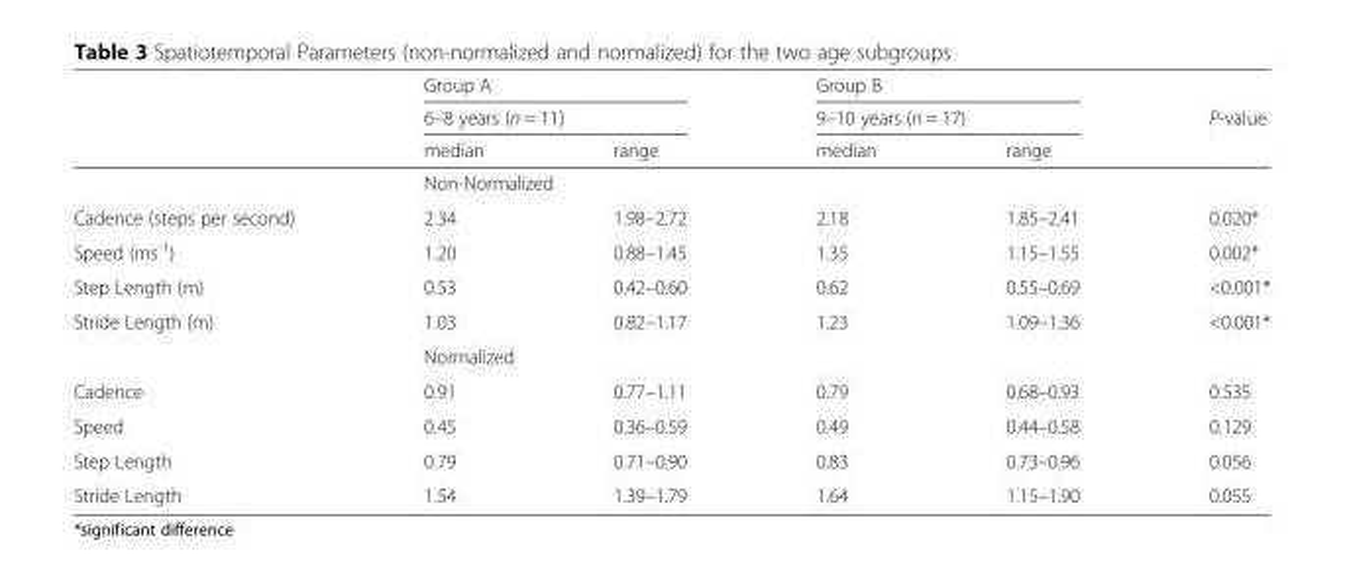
<table><thead><tr><td rowspan="3"></td><td rowspan="2" colspan="2">Group A 6–8 years (n = 11)</td><td rowspan="2" colspan="2">Group B 9–10 years (n = 17)</td><td rowspan="3">P-value</td></tr><tr></tr><tr><td>median</td><td>range</td><td>median</td><td>range</td></tr></thead><tbody><tr><td></td><td colspan="5">Non-Normalized</td></tr><tr><td>Cadence (steps per second)</td><td>2.34</td><td>1.98–2.72</td><td>2.18</td><td>1.85–2.41</td><td>0.020*</td></tr><tr><td>Speed (ms<sup>-1</sup>)</td><td>1.20</td><td>0.88–1.45</td><td>1.35</td><td>1.15–1.55</td><td>0.002*</td></tr><tr><td>Step Length (m)</td><td>0.53</td><td>0.42–0.60</td><td>0.62</td><td>0.55–0.69</td><td>&lt;0.001*</td></tr><tr><td rowspan="2">Stride Length (m)</td><td>1.03</td><td>0.82–1.17</td><td>1.23</td><td>1.09–1.36</td><td>&lt;0.001*</td></tr><tr><td colspan="5">Normalized</td></tr><tr><td>Cadence</td><td>0.91</td><td>0.77–1.11</td><td>0.79</td><td>0.68–0.93</td><td>0.535</td></tr><tr><td>Speed</td><td>0.45</td><td>0.36–0.59</td><td>0.49</td><td>0.44–0.58</td><td>0.129</td></tr><tr><td>Step Length</td><td>0.79</td><td>0.71–0.90</td><td>0.83</td><td>0.73–0.96</td><td>0.056</td></tr><tr><td>Stride Length</td><td>1.54</td><td>1.39–1.79</td><td>1.64</td><td>1.15–1.90</td><td>0.055</td></tr></tbody></table>